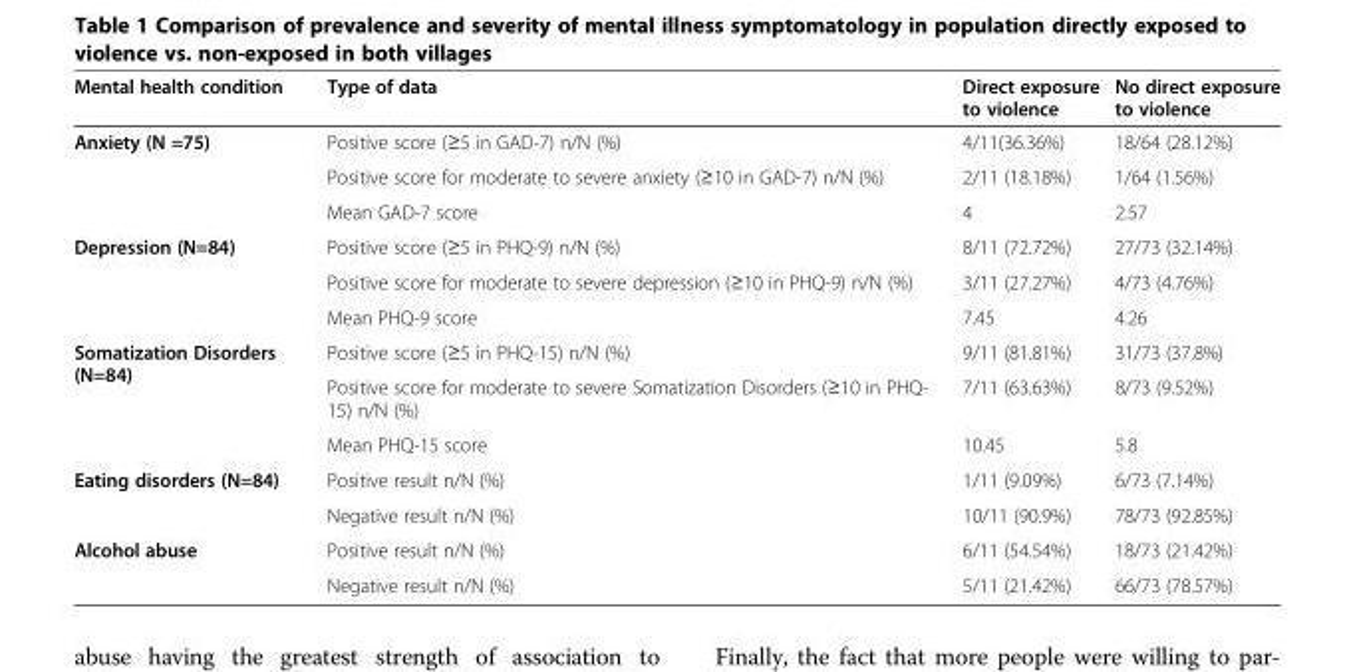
<table><thead><tr><td>Mental health condition</td><td>Type of data</td><td>Direct exposure to violence</td><td>No direct exposure to violence</td></tr></thead><tbody><tr><td rowspan="3">Anxiety (N =75)</td><td>Positive score (≥5 in GAD-7) n/N (%)</td><td>4/11(36.36%)</td><td>18/64 (28.12%)</td></tr><tr><td>Positive score for moderate to severe anxiety (≥10 in GAD-7) n/N (%)</td><td>2/11 (18.18%)</td><td>1/64 (1.56%)</td></tr><tr><td>Mean GAD-7 score</td><td>4</td><td>2.57</td></tr><tr><td rowspan="3">Depression (N=84)</td><td>Positive score (≥5 in PHQ-9) n/N (%)</td><td>8/11 (72.72%)</td><td>27/73 (32.14%)</td></tr><tr><td>Positive score for moderate to severe depression (≥10 in PHQ-9) n/N (%)</td><td>3/11 (27.27%)</td><td>4/73 (4.76%)</td></tr><tr><td>Mean PHQ-9 score</td><td>7.45</td><td>4.26</td></tr><tr><td rowspan="3">Somatization Disorders (N=84)</td><td>Positive score (≥5 in PHQ-15) n/N (%)</td><td>9/11 (81.81%)</td><td>31/73 (37.8%)</td></tr><tr><td>Positive score for moderate to severe Somatization Disorders (≥10 in PHQ- 15) n/N (%)</td><td>7/11 (63.63%)</td><td>8/73 (9.52%)</td></tr><tr><td>Mean PHQ-15 score</td><td>10.45</td><td>5.8</td></tr><tr><td rowspan="2">Eating disorders (N=84)</td><td>Positive result n/N (%)</td><td>1/11 (9.09%)</td><td>6/73 (7.14%)</td></tr><tr><td>Negative result n/N (%)</td><td>10/11 (90.9%)</td><td>78/73 (92.85%)</td></tr><tr><td rowspan="2">Alcohol abuse</td><td>Positive result n/N (%)</td><td>6/11 (54.54%)</td><td>18/73 (21.42%)</td></tr><tr><td>Negative result n/N (%)</td><td>5/11 (21.42%)</td><td>66/73 (78.57%)</td></tr></tbody></table>